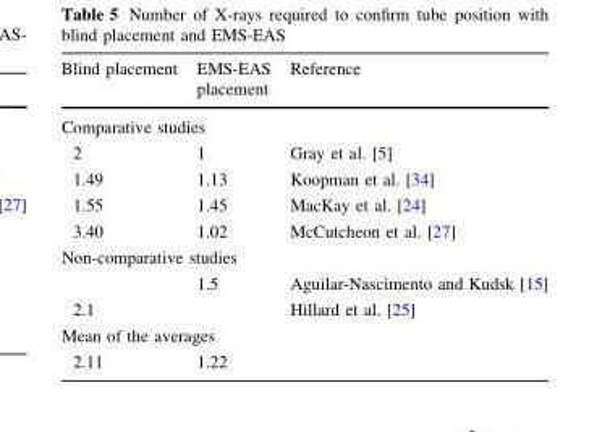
<table><thead><tr><td>Blind placement</td><td>EMS-EAS placement</td><td>Reference</td></tr></thead><tbody><tr><td colspan="3">Comparative studies</td></tr><tr><td>2</td><td>1</td><td>Gray et al. [5]</td></tr><tr><td>1.49</td><td>1.13</td><td>Koopman et al. [34]</td></tr><tr><td>1.55</td><td>1.45</td><td>MacKay et al. [24]</td></tr><tr><td>3.40</td><td>1.02</td><td>McCutcheon et al. [27]</td></tr><tr><td colspan="3">Non-comparative studies</td></tr><tr><td></td><td>1.5</td><td>Aguilar-Nascimento and Kudsk [15]</td></tr><tr><td>2.1</td><td></td><td>Hillard et al. [25]</td></tr><tr><td colspan="3">Mean of the averages</td></tr><tr><td>2.11</td><td>1.22</td><td></td></tr></tbody></table>